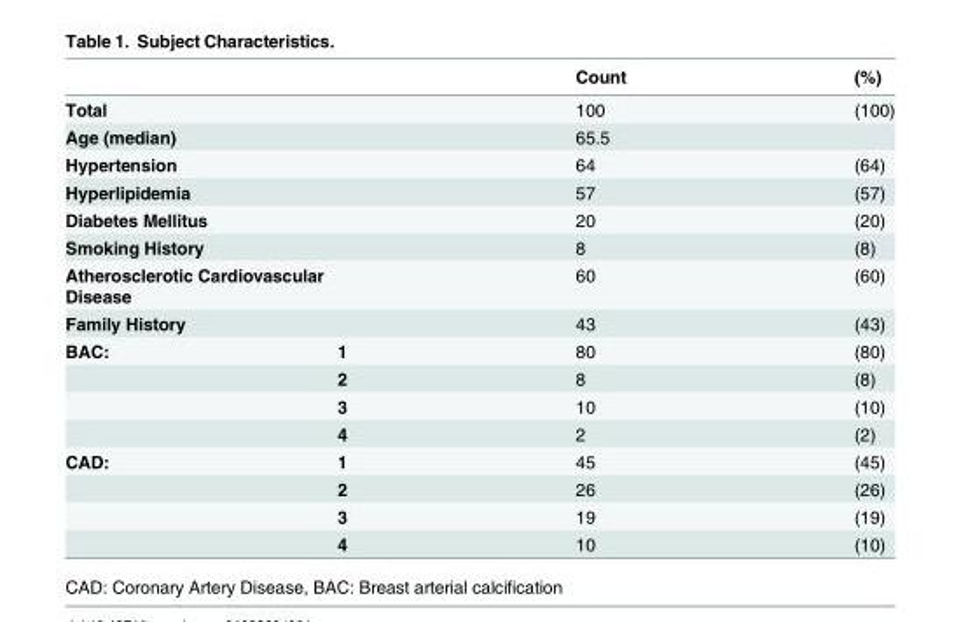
<table><thead><tr><td></td><td></td><td>Count</td><td>(%)</td></tr></thead><tbody><tr><td colspan="2">Total</td><td>100</td><td>(100)</td></tr><tr><td colspan="2">Age (median)</td><td>65.5</td><td></td></tr><tr><td colspan="2">Hypertension</td><td>64</td><td>(64)</td></tr><tr><td colspan="2">Hyperlipidemia</td><td>57</td><td>(57)</td></tr><tr><td colspan="2">Diabetes Mellitus</td><td>20</td><td>(20)</td></tr><tr><td colspan="2">Smoking History</td><td>8</td><td>(8)</td></tr><tr><td colspan="2">Atherosclerotic Cardiovascular Disease</td><td>60</td><td>(60)</td></tr><tr><td colspan="2">Family History</td><td>43</td><td>(43)</td></tr><tr><td rowspan="4">BAC:</td><td>1</td><td>80</td><td>(80)</td></tr><tr><td>2</td><td>8</td><td>(8)</td></tr><tr><td>3</td><td>10</td><td>(10)</td></tr><tr><td>4</td><td>2</td><td>(2)</td></tr><tr><td rowspan="4">CAD:</td><td>1</td><td>45</td><td>(45)</td></tr><tr><td>2</td><td>26</td><td>(26)</td></tr><tr><td>3</td><td>19</td><td>(19)</td></tr><tr><td>4</td><td>10</td><td>(10)</td></tr></tbody></table>